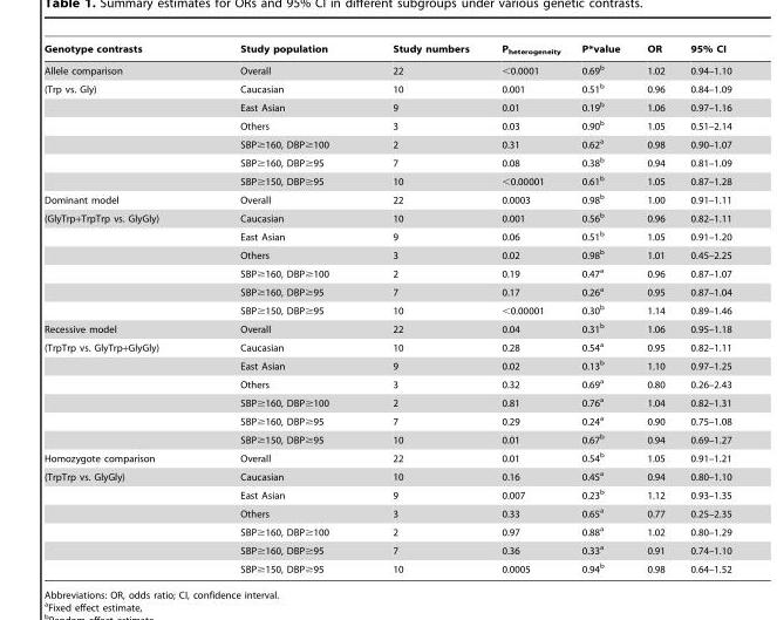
<table><thead><tr><td>Genotype contrasts</td><td>Study population</td><td>Study numbers</td><td>P<sub>heterogeneity</sub></td><td>P*value</td><td>OR</td><td>95% CI</td></tr></thead><tbody><tr><td>Allele comparison</td><td>Overall</td><td>22</td><td>&lt;0.0001</td><td>0.69<sup>b</sup></td><td>1.02</td><td>0.94–1.10</td></tr><tr><td rowspan="6">(Trp vs. Gly)</td><td>Caucasian</td><td>10</td><td>0.001</td><td>0.51<sup>b</sup></td><td>0.96</td><td>0.84–1.09</td></tr><tr><td>East Asian</td><td>9</td><td>0.01</td><td>0.19<sup>b</sup></td><td>1.06</td><td>0.97–1.16</td></tr><tr><td>Others</td><td>3</td><td>0.03</td><td>0.90<sup>b</sup></td><td>1.05</td><td>0.51–2.14</td></tr><tr><td>SBP≥160, DBP≥100</td><td>2</td><td>0.31</td><td>0.62<sup>a</sup></td><td>0.98</td><td>0.90–1.07</td></tr><tr><td>SBP≥160, DBP≥95</td><td>7</td><td>0.08</td><td>0.38<sup>b</sup></td><td>0.94</td><td>0.81–1.09</td></tr><tr><td>SBP≥150, DBP≥95</td><td>10</td><td>&lt;0.00001</td><td>0.61<sup>b</sup></td><td>1.05</td><td>0.87–1.28</td></tr><tr><td>Dominant model</td><td>Overall</td><td>22</td><td>0.0003</td><td>0.98<sup>b</sup></td><td>1.00</td><td>0.91–1.11</td></tr><tr><td rowspan="6">(GlyTrp+TrpTrp vs. GlyGly)</td><td>Caucasian</td><td>10</td><td>0.001</td><td>0.56<sup>b</sup></td><td>0.96</td><td>0.82–1.11</td></tr><tr><td>East Asian</td><td>9</td><td>0.06</td><td>0.51<sup>b</sup></td><td>1.05</td><td>0.91–1.20</td></tr><tr><td>Others</td><td>3</td><td>0.02</td><td>0.98<sup>b</sup></td><td>1.01</td><td>0.45–2.25</td></tr><tr><td>SBP≥160, DBP≥100</td><td>2</td><td>0.19</td><td>0.47<sup>a</sup></td><td>0.96</td><td>0.87–1.07</td></tr><tr><td>SBP≥160, DBP≥95</td><td>7</td><td>0.17</td><td>0.26<sup>a</sup></td><td>0.95</td><td>0.87–1.04</td></tr><tr><td>SBP≥150, DBP≥95</td><td>10</td><td>&lt;0.00001</td><td>0.30<sup>b</sup></td><td>1.14</td><td>0.89–1.46</td></tr><tr><td>Recessive model</td><td>Overall</td><td>22</td><td>0.04</td><td>0.31<sup>b</sup></td><td>1.06</td><td>0.95–1.18</td></tr><tr><td rowspan="6">(TrpTrp vs. GlyTrp+GlyGly)</td><td>Caucasian</td><td>10</td><td>0.28</td><td>0.54<sup>a</sup></td><td>0.95</td><td>0.82–1.11</td></tr><tr><td>East Asian</td><td>9</td><td>0.02</td><td>0.13<sup>b</sup></td><td>1.10</td><td>0.97–1.25</td></tr><tr><td>Others</td><td>3</td><td>0.32</td><td>0.69<sup>a</sup></td><td>0.80</td><td>0.26–2.43</td></tr><tr><td>SBP≥160, DBP≥100</td><td>2</td><td>0.81</td><td>0.76<sup>a</sup></td><td>1.04</td><td>0.82–1.31</td></tr><tr><td>SBP≥160, DBP≥95</td><td>7</td><td>0.29</td><td>0.24<sup>a</sup></td><td>0.90</td><td>0.75–1.08</td></tr><tr><td>SBP≥150, DBP≥95</td><td>10</td><td>0.01</td><td>0.67<sup>b</sup></td><td>0.94</td><td>0.69–1.27</td></tr><tr><td>Homozygote comparison</td><td>Overall</td><td>22</td><td>0.01</td><td>0.54<sup>b</sup></td><td>1.05</td><td>0.91–1.21</td></tr><tr><td rowspan="6">(TrpTrp vs. GlyGly)</td><td>Caucasian</td><td>10</td><td>0.16</td><td>0.45<sup>a</sup></td><td>0.94</td><td>0.80–1.10</td></tr><tr><td>East Asian</td><td>9</td><td>0.007</td><td>0.23<sup>b</sup></td><td>1.12</td><td>0.93–1.35</td></tr><tr><td>Others</td><td>3</td><td>0.33</td><td>0.65<sup>a</sup></td><td>0.77</td><td>0.25–2.35</td></tr><tr><td>SBP≥160, DBP≥100</td><td>2</td><td>0.97</td><td>0.88<sup>a</sup></td><td>1.02</td><td>0.80–1.29</td></tr><tr><td>SBP≥160, DBP≥95</td><td>7</td><td>0.36</td><td>0.33<sup>a</sup></td><td>0.91</td><td>0.74–1.10</td></tr><tr><td>SBP≥150, DBP≥95</td><td>10</td><td>0.0005</td><td>0.94<sup>b</sup></td><td>0.98</td><td>0.64–1.52</td></tr></tbody></table>